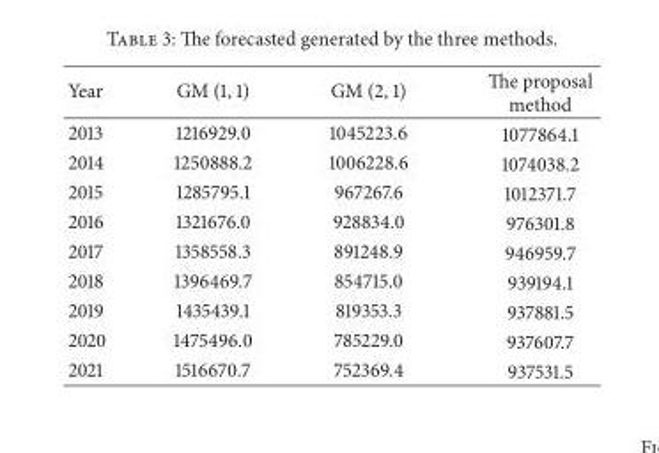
<table><thead><tr><td>Year</td><td>GM (1, 1)</td><td>GM (2, 1)</td><td>The proposal method</td></tr></thead><tbody><tr><td>2013</td><td>1216929.0</td><td>1045223.6</td><td>1077864.1</td></tr><tr><td>2014</td><td>1250888.2</td><td>1006228.6</td><td>1074038.2</td></tr><tr><td>2015</td><td>1285795.1</td><td>967267.6</td><td>1012371.7</td></tr><tr><td>2016</td><td>1321676.0</td><td>928834.0</td><td>976301.8</td></tr><tr><td>2017</td><td>1358558.3</td><td>891248.9</td><td>946959.7</td></tr><tr><td>2018</td><td>1396469.7</td><td>854715.0</td><td>939194.1</td></tr><tr><td>2019</td><td>1435439.1</td><td>819353.3</td><td>937881.5</td></tr><tr><td>2020</td><td>1475496.0</td><td>785229.0</td><td>937607.7</td></tr><tr><td>2021</td><td>1516670.7</td><td>752369.4</td><td>937531.5</td></tr></tbody></table>